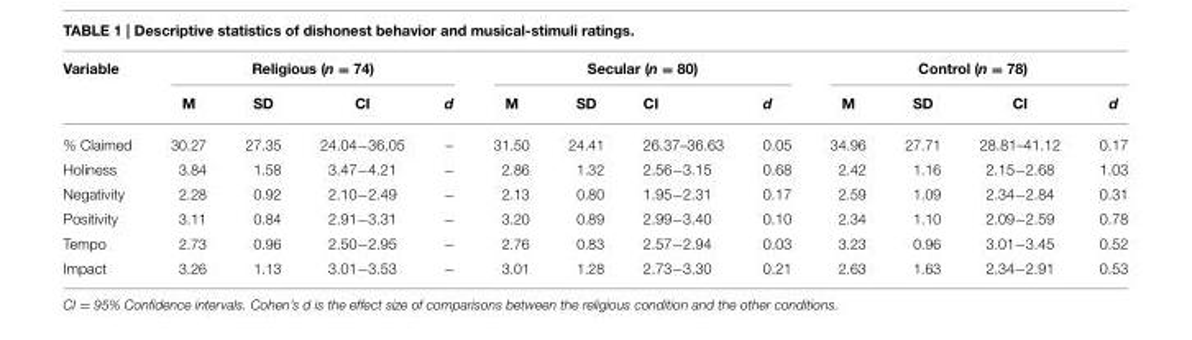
<table><thead><tr><td rowspan="2">Variable</td><td colspan="4">Religious (n = 74)</td><td colspan="4">Secular (n = 80)</td><td colspan="4">Control (n = 78)</td></tr><tr><td>M</td><td>SD</td><td>CI</td><td>d</td><td>M</td><td>SD</td><td>CI</td><td>d</td><td>M</td><td>SD</td><td>CI</td><td>d</td></tr></thead><tbody><tr><td>% Claimed</td><td>30.27</td><td>27.35</td><td>24.04−36.05</td><td>–</td><td>31.50</td><td>24.41</td><td>26.37–36.63</td><td>0.05</td><td>34.96</td><td>27.71</td><td>28.81–41.12</td><td>0.17</td></tr><tr><td>Holiness</td><td>3.84</td><td>1.58</td><td>3.47−4.21</td><td>−</td><td>2.86</td><td>1.32</td><td>2.56−3.15</td><td>0.68</td><td>2.42</td><td>1.16</td><td>2.15−2.68</td><td>1.03</td></tr><tr><td>Negativity</td><td>2.28</td><td>0.92</td><td>2.10−2.49</td><td>−</td><td>2.13</td><td>0.80</td><td>1.95−2.31</td><td>0.17</td><td>2.59</td><td>1.09</td><td>2.34−2.84</td><td>0.31</td></tr><tr><td>Positivity</td><td>3.11</td><td>0.84</td><td>2.91−3.31</td><td>−</td><td>3.20</td><td>0.89</td><td>2.99−3.40</td><td>0.10</td><td>2.34</td><td>1.10</td><td>2.09−2.59</td><td>0.78</td></tr><tr><td>Tempo</td><td>2.73</td><td>0.96</td><td>2.50−2.95</td><td>−</td><td>2.76</td><td>0.83</td><td>2.57−2.94</td><td>0.03</td><td>3.23</td><td>0.96</td><td>3.01−3.45</td><td>0.52</td></tr><tr><td>Impact</td><td>3.26</td><td>1.13</td><td>3.01−3.53</td><td>−</td><td>3.01</td><td>1.28</td><td>2.73−3.30</td><td>0.21</td><td>2.63</td><td>1.63</td><td>2.34−2.91</td><td>0.53</td></tr></tbody></table>